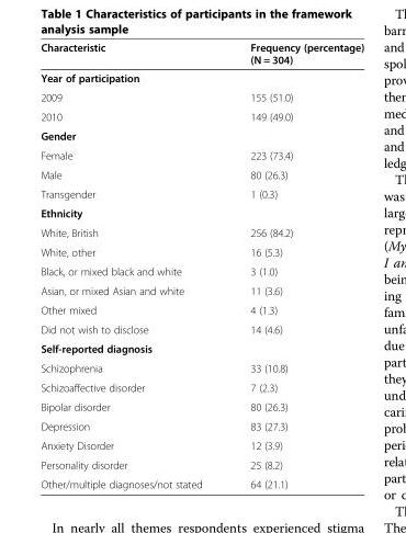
<table><thead><tr><td>Characteristic</td><td>Frequency (percentage) (N = 304)</td></tr></thead><tbody><tr><td colspan="2">Year of participation</td></tr><tr><td>2009</td><td>155 (51.0)</td></tr><tr><td>2010</td><td>149 (49.0)</td></tr><tr><td colspan="2">Gender</td></tr><tr><td>Female</td><td>223 (73.4)</td></tr><tr><td>Male</td><td>80 (26.3)</td></tr><tr><td>Transgender</td><td>1 (0.3)</td></tr><tr><td colspan="2">Ethnicity</td></tr><tr><td>White, British</td><td>256 (84.2)</td></tr><tr><td>White, other</td><td>16 (5.3)</td></tr><tr><td>Black, or mixed black and white</td><td>3 (1.0)</td></tr><tr><td>Asian, or mixed Asian and white</td><td>11 (3.6)</td></tr><tr><td>Other mixed</td><td>4 (1.3)</td></tr><tr><td>Did not wish to disclose</td><td>14 (4.6)</td></tr><tr><td colspan="2">Self-reported diagnosis</td></tr><tr><td>Schizophrenia</td><td>33 (10.8)</td></tr><tr><td>Schizoaffective disorder</td><td>7 (2.3)</td></tr><tr><td>Bipolar disorder</td><td>80 (26.3)</td></tr><tr><td>Depression</td><td>83 (27.3)</td></tr><tr><td>Anxiety Disorder</td><td>12 (3.9)</td></tr><tr><td>Personality disorder</td><td>25 (8.2)</td></tr><tr><td>Other/multiple diagnoses/not stated</td><td>64 (21.1)</td></tr></tbody></table>